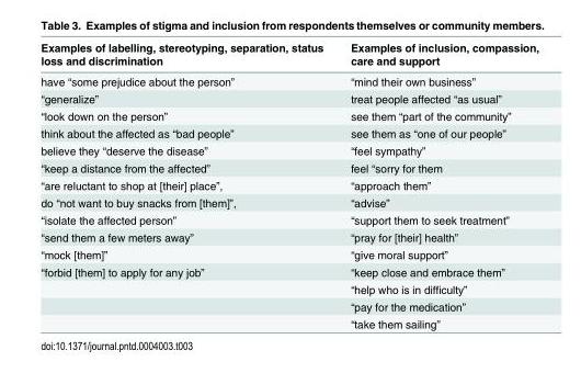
<table><thead><tr><td>Examples of labelling, stereotyping, separation, status loss and discrimination</td><td>Examples of inclusion, compassion, care and support</td></tr></thead><tbody><tr><td>have “some prejudice about the person”</td><td>“mind their own business”</td></tr><tr><td>“generalize”</td><td>treat people affected “as usual”</td></tr><tr><td>“look down on the person”</td><td>see them “part of the community”</td></tr><tr><td>think about the affected as “bad people”</td><td>see them as “one of our people”</td></tr><tr><td>believe they “deserve the disease”</td><td>“feel sympathy”</td></tr><tr><td>“keep a distance from the affected”</td><td>feel “sorry for them</td></tr><tr><td>“are reluctant to shop at [their] place”,</td><td>“approach them”</td></tr><tr><td>do “not want to buy snacks from [them]”,</td><td>“advise”</td></tr><tr><td>“isolate the affected person”</td><td>“support them to seek treatment”</td></tr><tr><td>“send them a few meters away”</td><td>“pray for [their] health”</td></tr><tr><td>“mock [them]”</td><td>“give moral support”</td></tr><tr><td rowspan="4">“forbid [them] to apply for any job”</td><td>“keep close and embrace them”</td></tr><tr><td>“help who is in difficulty”</td></tr><tr><td>“pay for the medication”</td></tr><tr><td>“take them sailing”</td></tr></tbody></table>